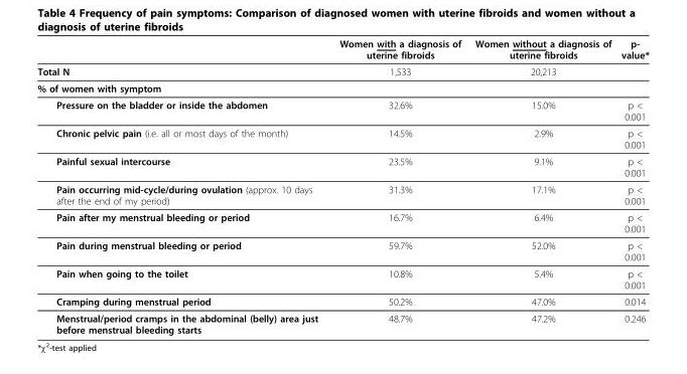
<table><thead><tr><td></td><td>Women with a diagnosis of uterine fibroids</td><td>Women without a diagnosis of uterine fibroids</td><td>p- value*</td></tr></thead><tbody><tr><td>Total N</td><td>1,533</td><td>20,213</td><td></td></tr><tr><td colspan="4">% of women with symptom</td></tr><tr><td>Pressure on the bladder or inside the abdomen</td><td>32.6%</td><td>15.0%</td><td>p &lt; 0.001</td></tr><tr><td>Chronic pelvic pain (i.e. all or most days of the month)</td><td>14.5%</td><td>2.9%</td><td>p &lt; 0.001</td></tr><tr><td>Painful sexual intercourse</td><td>23.5%</td><td>9.1%</td><td>p &lt; 0.001</td></tr><tr><td>Pain occurring mid-cycle/during ovulation (approx. 10 days after the end of my period)</td><td>31.3%</td><td>17.1%</td><td>p &lt; 0.001</td></tr><tr><td>Pain after my menstrual bleeding or period</td><td>16.7%</td><td>6.4%</td><td>p &lt; 0.001</td></tr><tr><td>Pain during menstrual bleeding or period</td><td>59.7%</td><td>52.0%</td><td>p &lt; 0.001</td></tr><tr><td>Pain when going to the toilet</td><td>10.8%</td><td>5.4%</td><td>p &lt; 0.001</td></tr><tr><td>Cramping during menstrual period</td><td>50.2%</td><td>47.0%</td><td>0.014</td></tr><tr><td>Menstrual/period cramps in the abdominal (belly) area just before menstrual bleeding starts</td><td>48.7%</td><td>47.2%</td><td>0.246</td></tr></tbody></table>